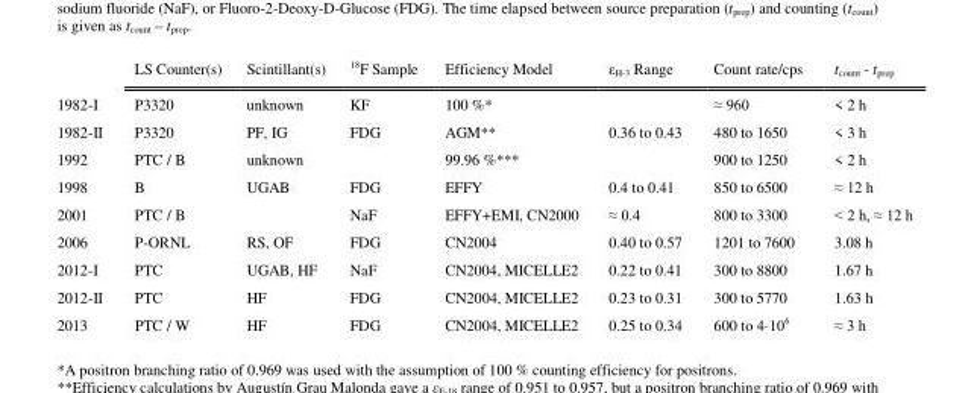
<table><thead><tr><td></td><td>LS Counter(s)</td><td>Scintillant(s)</td><td><sup>18</sup>F Sample</td><td>Efficiency Model</td><td>ε<sub>H-3</sub> Range</td><td>Count rate/cps</td><td>t<sub>count</sub> - t<sub>prep</sub></td></tr></thead><tbody><tr><td>1982-I</td><td>P3320</td><td>unknown</td><td>KF</td><td>100 %*</td><td></td><td>≈ 960</td><td>&lt; 2 h</td></tr><tr><td>1982-II</td><td>P3320</td><td>PF, IG</td><td>FDG</td><td>AGM**</td><td>0.36 to 0.43</td><td>480 to 1650</td><td>&lt; 3 h</td></tr><tr><td>1992</td><td>PTC / B</td><td>unknown</td><td></td><td>99.96 %***</td><td></td><td>900 to 1250</td><td>&lt; 2 h</td></tr><tr><td>1998</td><td>B</td><td>UGAB</td><td>FDG</td><td>EFFY</td><td>0.4 to 0.41</td><td>850 to 6500</td><td>≈ 12 h</td></tr><tr><td>2001</td><td>PTC / B</td><td></td><td>NaF</td><td>EFFY+EMI, CN2000</td><td>≈ 0.4</td><td>800 to 3300</td><td>&lt; 2 h, ≈ 12 h</td></tr><tr><td>2006</td><td>P-ORNL</td><td>RS, OF</td><td>FDG</td><td>CN2004</td><td>0.40 to 0.57</td><td>1201 to 7600</td><td>3.08 h</td></tr><tr><td>2012-I</td><td>PTC</td><td>UGAB, HF</td><td>NaF</td><td>CN2004, MICELLE2</td><td>0.22 to 0.41</td><td>300 to 8800</td><td>1.67 h</td></tr><tr><td>2012-II</td><td>PTC</td><td>HF</td><td>FDG</td><td>CN2004, MICELLE2</td><td>0.23 to 0.31</td><td>300 to 5770</td><td>1.63 h</td></tr><tr><td>2013</td><td>PTC / W</td><td>HF</td><td>FDG</td><td>CN2004, MICELLE2</td><td>0.25 to 0.34</td><td>600 to 4·10<sup>6</sup></td><td>≈ 3 h</td></tr></tbody></table>